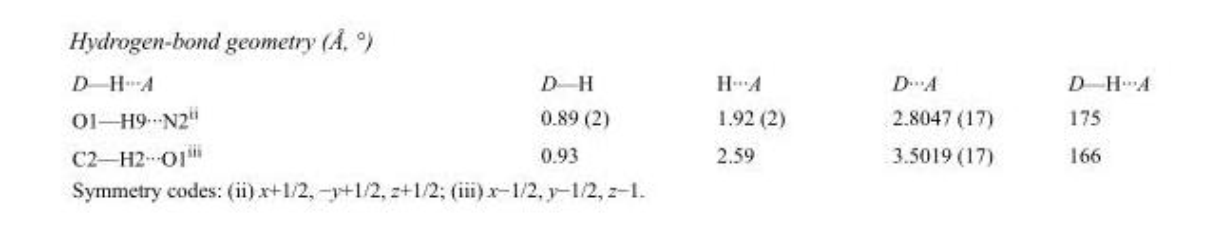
<table><tbody><tr><td>D—H···A</td><td>D—H</td><td>H···A</td><td>D···A</td><td>D—H···A</td></tr><tr><td>O1—H9···N2<sup>ii</sup></td><td>0.89 (2)</td><td>1.92 (2)</td><td>2.8047 (17)</td><td>175</td></tr><tr><td>C2—H2···O1<sup>iii</sup></td><td>0.93</td><td>2.59</td><td>3.5019 (17)</td><td>166</td></tr></tbody></table>